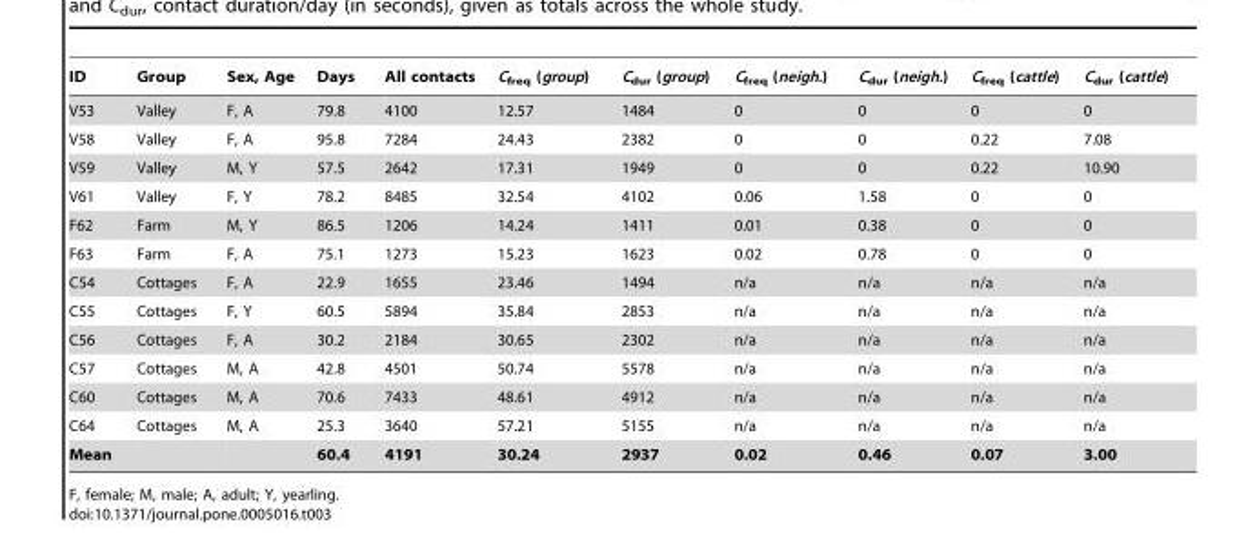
<table><thead><tr><td>ID</td><td>Group</td><td>Sex, Age</td><td>Days</td><td>All contacts</td><td>C<sub>freq</sub> (group)</td><td>C<sub>dur</sub> (group)</td><td>C<sub>freq</sub> (neigh.)</td><td>C<sub>dur</sub> (neigh.)</td><td>C<sub>freq</sub> (cattle)</td><td>C<sub>dur</sub> (cattle)</td></tr></thead><tbody><tr><td>V53</td><td>Valley</td><td>F, A</td><td>79.8</td><td>4100</td><td>12.57</td><td>1484</td><td>0</td><td>0</td><td>0</td><td>0</td></tr><tr><td>V58</td><td>Valley</td><td>F, A</td><td>95.8</td><td>7284</td><td>24.43</td><td>2382</td><td>0</td><td>0</td><td>0.22</td><td>7.08</td></tr><tr><td>V59</td><td>Valley</td><td>M, Y</td><td>57.5</td><td>2642</td><td>17.31</td><td>1949</td><td>0</td><td>0</td><td>0.22</td><td>10.90</td></tr><tr><td>V61</td><td>Valley</td><td>F, Y</td><td>78.2</td><td>8485</td><td>32.54</td><td>4102</td><td>0.06</td><td>1.58</td><td>0</td><td>0</td></tr><tr><td>F62</td><td>Farm</td><td>M, Y</td><td>86.5</td><td>1206</td><td>14.24</td><td>1411</td><td>0.01</td><td>0.38</td><td>0</td><td>0</td></tr><tr><td>F63</td><td>Farm</td><td>F, A</td><td>75.1</td><td>1273</td><td>15.23</td><td>1623</td><td>0.02</td><td>0.78</td><td>0</td><td>0</td></tr><tr><td>C54</td><td>Cottages</td><td>F, A</td><td>22.9</td><td>1655</td><td>23.46</td><td>1494</td><td>n/a</td><td>n/a</td><td>n/a</td><td>n/a</td></tr><tr><td>C55</td><td>Cottages</td><td>F, Y</td><td>60.5</td><td>5894</td><td>35.84</td><td>2853</td><td>n/a</td><td>n/a</td><td>n/a</td><td>n/a</td></tr><tr><td>C56</td><td>Cottages</td><td>F, A</td><td>30.2</td><td>2184</td><td>30.65</td><td>2302</td><td>n/a</td><td>n/a</td><td>n/a</td><td>n/a</td></tr><tr><td>C57</td><td>Cottages</td><td>M, A</td><td>42.8</td><td>4501</td><td>50.74</td><td>5578</td><td>n/a</td><td>n/a</td><td>n/a</td><td>n/a</td></tr><tr><td>C60</td><td>Cottages</td><td>M, A</td><td>70.6</td><td>7433</td><td>48.61</td><td>4912</td><td>n/a</td><td>n/a</td><td>n/a</td><td>n/a</td></tr><tr><td>C64</td><td>Cottages</td><td>M, A</td><td>25.3</td><td>3640</td><td>57.21</td><td>5155</td><td>n/a</td><td>n/a</td><td>n/a</td><td>n/a</td></tr><tr><td>Mean</td><td></td><td></td><td>60.4</td><td>4191</td><td>30.24</td><td>2937</td><td>0.02</td><td>0.46</td><td>0.07</td><td>3.00</td></tr></tbody></table>